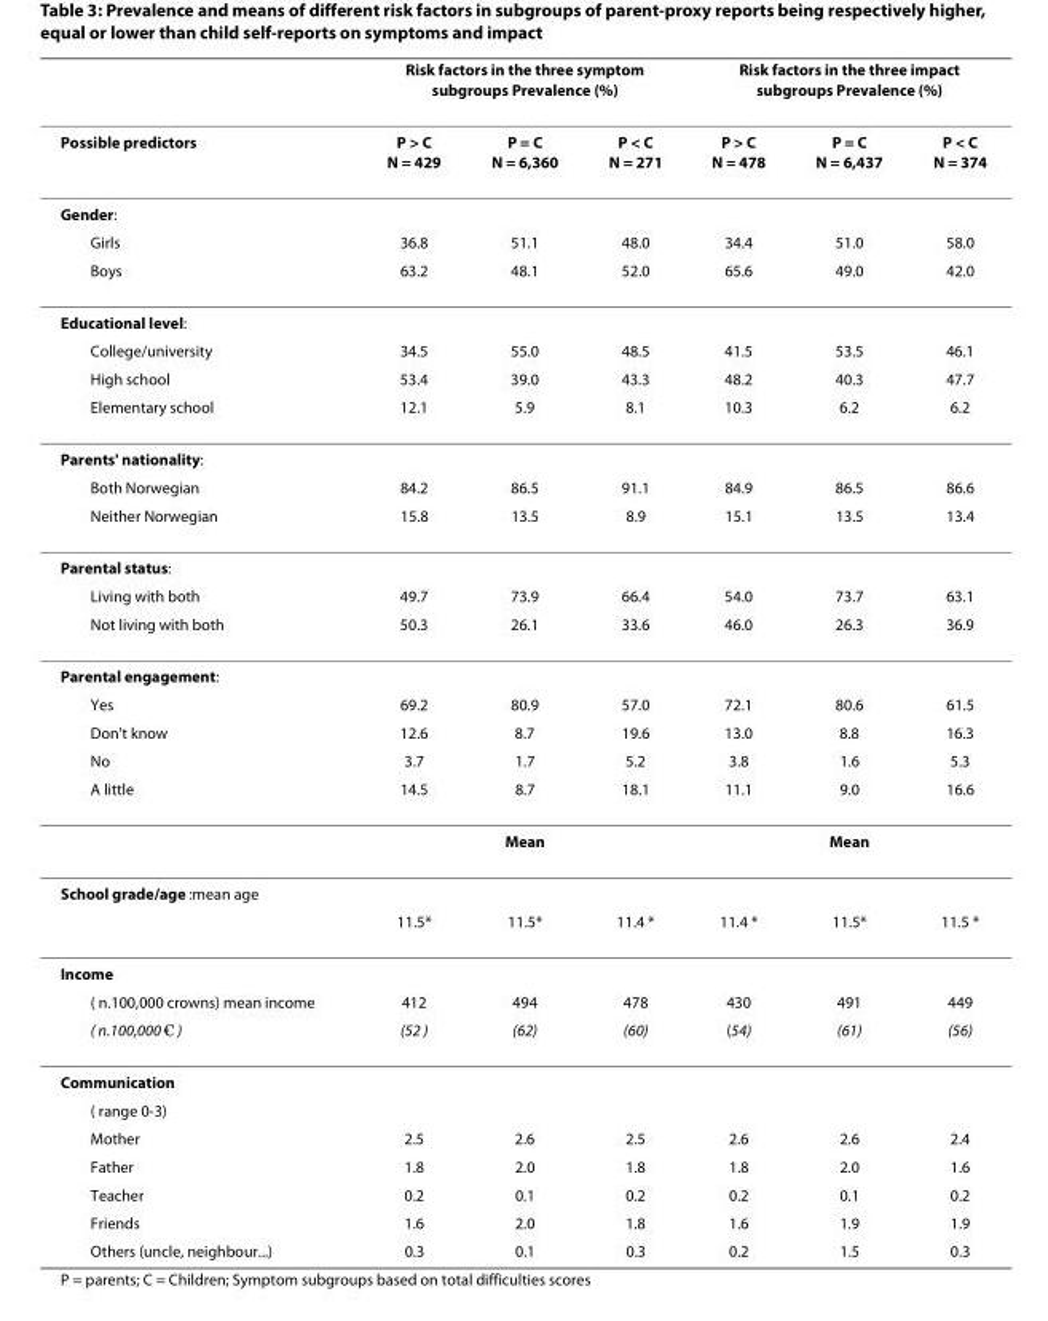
<table><thead><tr><td rowspan="2">Possible predictors</td><td colspan="3">Risk factors in the three symptom subgroups Prevalence (%)</td><td colspan="3">Risk factors in the three impact subgroups Prevalence (%)</td></tr><tr><td>P &gt; C N = 429</td><td>P = C N = 6,360</td><td>P &lt; C N = 271</td><td>P &gt; C N = 478</td><td>P = C N = 6,437</td><td>P &lt; C N = 374</td></tr></thead><tbody><tr><td colspan="7">Gender:</td></tr><tr><td>Girls</td><td>36.8</td><td>51.1</td><td>48.0</td><td>34.4</td><td>51.0</td><td>58.0</td></tr><tr><td>Boys</td><td>63.2</td><td>48.1</td><td>52.0</td><td>65.6</td><td>49.0</td><td>42.0</td></tr><tr><td colspan="7">Educational level:</td></tr><tr><td>College/university</td><td>34.5</td><td>55.0</td><td>48.5</td><td>41.5</td><td>53.5</td><td>46.1</td></tr><tr><td>High school</td><td>53.4</td><td>39.0</td><td>43.3</td><td>48.2</td><td>40.3</td><td>47.7</td></tr><tr><td>Elementary school</td><td>12.1</td><td>5.9</td><td>8.1</td><td>10.3</td><td>6.2</td><td>6.2</td></tr><tr><td colspan="7">Parents&#x27; nationality:</td></tr><tr><td>Both Norwegian</td><td>84.2</td><td>86.5</td><td>91.1</td><td>84.9</td><td>86.5</td><td>86.6</td></tr><tr><td>Neither Norwegian</td><td>15.8</td><td>13.5</td><td>8.9</td><td>15.1</td><td>13.5</td><td>13.4</td></tr><tr><td colspan="7">Parental status:</td></tr><tr><td>Living with both</td><td>49.7</td><td>73.9</td><td>66.4</td><td>54.0</td><td>73.7</td><td>63.1</td></tr><tr><td>Not living with both</td><td>50.3</td><td>26.1</td><td>33.6</td><td>46.0</td><td>26.3</td><td>36.9</td></tr><tr><td colspan="7">Parental engagement:</td></tr><tr><td>Yes</td><td>69.2</td><td>80.9</td><td>57.0</td><td>72.1</td><td>80.6</td><td>61.5</td></tr><tr><td>Don&#x27;t know</td><td>12.6</td><td>8.7</td><td>19.6</td><td>13.0</td><td>8.8</td><td>16.3</td></tr><tr><td>No</td><td>3.7</td><td>1.7</td><td>5.2</td><td>3.8</td><td>1.6</td><td>5.3</td></tr><tr><td rowspan="2">A little</td><td>14.5</td><td>8.7</td><td>18.1</td><td>11.1</td><td>9.0</td><td>16.6</td></tr><tr><td colspan="3">Mean</td><td colspan="3">Mean</td></tr><tr><td colspan="7">School grade/age :mean age</td></tr><tr><td></td><td>11.5*</td><td>11.5*</td><td>11.4 *</td><td>11.4 *</td><td>11.5*</td><td>11.5 *</td></tr><tr><td colspan="7">Income</td></tr><tr><td>( n.100,000 crowns) mean income</td><td>412</td><td>494</td><td>478</td><td>430</td><td>491</td><td>449</td></tr><tr><td>( n.100,000 € )</td><td>(52 )</td><td>(62)</td><td>(60)</td><td>(54)</td><td>(61)</td><td>(56)</td></tr><tr><td colspan="7">Communication</td></tr><tr><td colspan="7">( range 0-3)</td></tr><tr><td>Mother</td><td>2.5</td><td>2.6</td><td>2.5</td><td>2.6</td><td>2.6</td><td>2.4</td></tr><tr><td>Father</td><td>1.8</td><td>2.0</td><td>1.8</td><td>1.8</td><td>2.0</td><td>1.6</td></tr><tr><td>Teacher</td><td>0.2</td><td>0.1</td><td>0.2</td><td>0.2</td><td>0.1</td><td>0.2</td></tr><tr><td>Friends</td><td>1.6</td><td>2.0</td><td>1.8</td><td>1.6</td><td>1.9</td><td>1.9</td></tr><tr><td>Others (uncle, neighbour...)</td><td>0.3</td><td>0.1</td><td>0.3</td><td>0.2</td><td>1.5</td><td>0.3</td></tr></tbody></table>